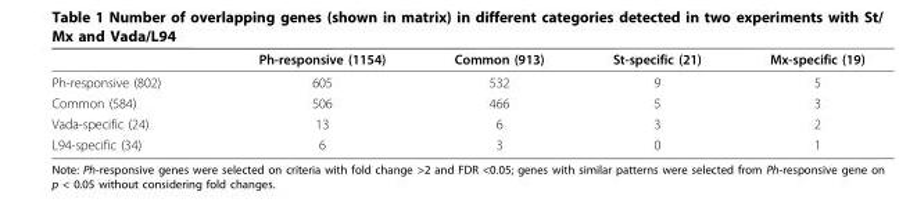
<table><thead><tr><td></td><td>Ph-responsive (1154)</td><td>Common (913)</td><td>St-specific (21)</td><td>Mx-specific (19)</td></tr></thead><tbody><tr><td>Ph-responsive (802)</td><td>605</td><td>532</td><td>9</td><td>5</td></tr><tr><td>Common (584)</td><td>506</td><td>466</td><td>5</td><td>3</td></tr><tr><td>Vada-specific (24)</td><td>13</td><td>6</td><td>3</td><td>2</td></tr><tr><td>L94-specific (34)</td><td>6</td><td>3</td><td>0</td><td>1</td></tr></tbody></table>